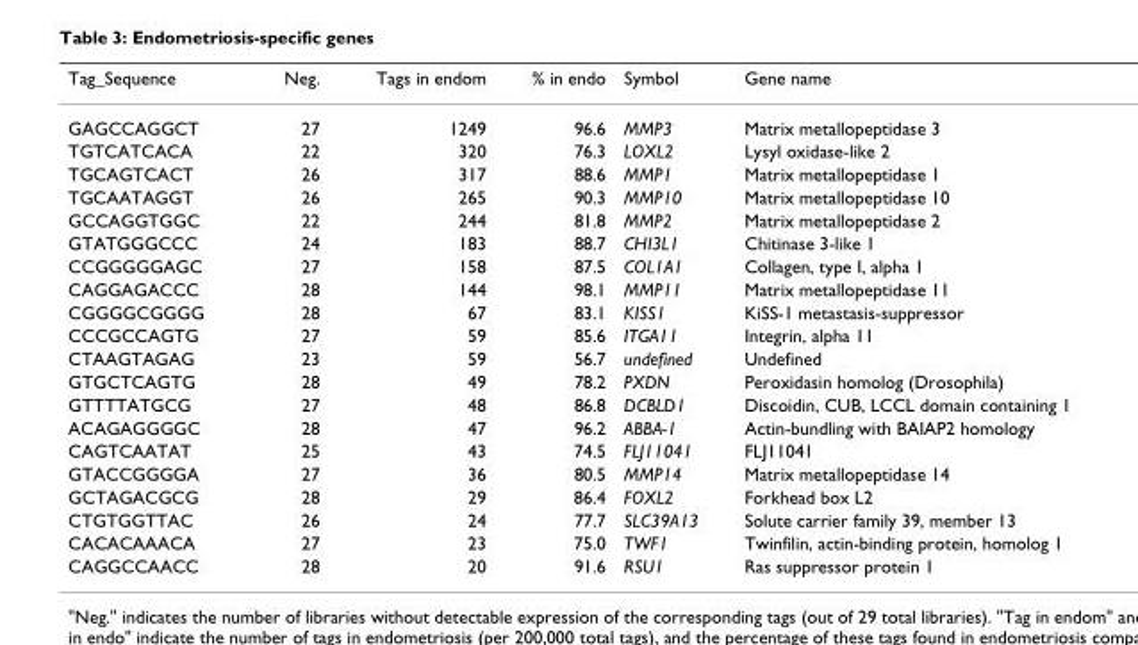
<table><thead><tr><td>Tag_Sequence</td><td>Neg.</td><td>Tags in endom</td><td>% in endo</td><td>Symbol</td><td>Gene name</td></tr></thead><tbody><tr><td>GAGCCAGGCT</td><td>27</td><td>1249</td><td>96.6</td><td>MMP3</td><td>Matrix metallopeptidase 3</td></tr><tr><td>TGTCATCACA</td><td>22</td><td>320</td><td>76.3</td><td>LOXL2</td><td>Lysyl oxidase-like 2</td></tr><tr><td>TGCAGTCACT</td><td>26</td><td>317</td><td>88.6</td><td>MMP1</td><td>Matrix metallopeptidase 1</td></tr><tr><td>TGCAATAGGT</td><td>26</td><td>265</td><td>90.3</td><td>MMP10</td><td>Matrix metallopeptidase 10</td></tr><tr><td>GCCAGGTGGC</td><td>22</td><td>244</td><td>81.8</td><td>MMP2</td><td>Matrix metallopeptidase 2</td></tr><tr><td>GTATGGGCCC</td><td>24</td><td>183</td><td>88.7</td><td>CHI3L1</td><td>Chitinase 3-like 1</td></tr><tr><td>CCGGGGGAGC</td><td>27</td><td>158</td><td>87.5</td><td>COL1A1</td><td>Collagen, type I, alpha 1</td></tr><tr><td>CAGGAGACCC</td><td>28</td><td>144</td><td>98.1</td><td>MMP11</td><td>Matrix metallopeptidase 11</td></tr><tr><td>CGGGGCGGGG</td><td>28</td><td>67</td><td>83.1</td><td>KISS1</td><td>KiSS-1 metastasis-suppressor</td></tr><tr><td>CCCGCCAGTG</td><td>27</td><td>59</td><td>85.6</td><td>ITGA11</td><td>Integrin, alpha 11</td></tr><tr><td>CTAAGTAGAG</td><td>23</td><td>59</td><td>56.7</td><td>undefined</td><td>Undefined</td></tr><tr><td>GTGCTCAGTG</td><td>28</td><td>49</td><td>78.2</td><td>PXDN</td><td>Peroxidasin homolog (Drosophila)</td></tr><tr><td>GTTTTATGCG</td><td>27</td><td>48</td><td>86.8</td><td>DCBLD1</td><td>Discoidin, CUB, LCCL domain containing 1</td></tr><tr><td>ACAGAGGGGC</td><td>28</td><td>47</td><td>96.2</td><td>ABBA-1</td><td>Actin-bundling with BAIAP2 homology</td></tr><tr><td>CAGTCAATAT</td><td>25</td><td>43</td><td>74.5</td><td>FLJ11041</td><td>FLJ11041</td></tr><tr><td>GTACCGGGGA</td><td>27</td><td>36</td><td>80.5</td><td>MMP14</td><td>Matrix metallopeptidase 14</td></tr><tr><td>GCTAGACGCG</td><td>28</td><td>29</td><td>86.4</td><td>FOXL2</td><td>Forkhead box L2</td></tr><tr><td>CTGTGGTTAC</td><td>26</td><td>24</td><td>77.7</td><td>SLC39A13</td><td>Solute carrier family 39, member 13</td></tr><tr><td>CACACAAACA</td><td>27</td><td>23</td><td>75.0</td><td>TWF1</td><td>Twinfilin, actin-binding protein, homolog 1</td></tr><tr><td>CAGGCCAACC</td><td>28</td><td>20</td><td>91.6</td><td>RSU1</td><td>Ras suppressor protein 1</td></tr></tbody></table>